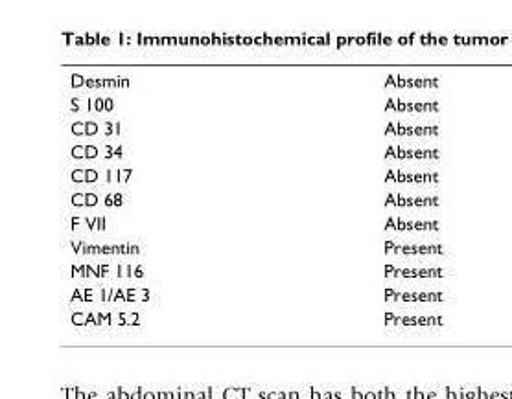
<table><tbody><tr><td>Desmin</td><td>Absent</td></tr><tr><td>S 100</td><td>Absent</td></tr><tr><td>CD 31</td><td>Absent</td></tr><tr><td>CD 34</td><td>Absent</td></tr><tr><td>CD 117</td><td>Absent</td></tr><tr><td>CD 68</td><td>Absent</td></tr><tr><td>F VII</td><td>Absent</td></tr><tr><td>Vimentin</td><td>Present</td></tr><tr><td>MNF 116</td><td>Present</td></tr><tr><td>AE 1/AE 3</td><td>Present</td></tr><tr><td>CAM 5.2</td><td>Present</td></tr></tbody></table>